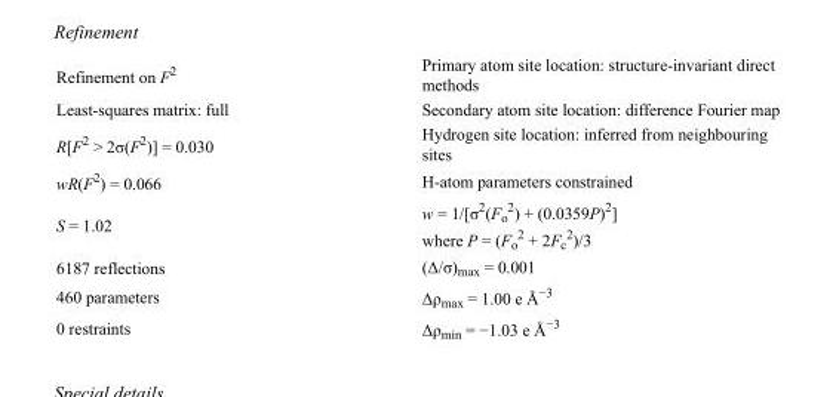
<table><tbody><tr><td>Refinement on F<sup>2</sup></td><td>Primary atom site location: structure-invariant direct methods</td></tr><tr><td>Least-squares matrix: full</td><td>Secondary atom site location: difference Fourier map</td></tr><tr><td>R[F<sup>2</sup> &gt; 2σ(F<sup>2</sup>)] = 0.030</td><td>Hydrogen site location: inferred from neighbouring sites</td></tr><tr><td>wR(F<sup>2</sup>) = 0.066</td><td>H-atom parameters constrained</td></tr><tr><td>S = 1.02</td><td>w = 1/[σ<sup>2</sup>(F<sub>o</sub> <sup>2</sup>) + (0.0359P)<sup>2</sup>] where P = (F<sub>o</sub> <sup>2</sup> + 2F<sub>c</sub> <sup>2</sup>)/3</td></tr><tr><td>6187 reflections</td><td>(Δ/σ)<sub>max</sub> = 0.001</td></tr><tr><td>460 parameters</td><td>Δρ<sub>max</sub> = 1.00 e Å<sup>−3</sup></td></tr><tr><td>0 restraints</td><td>Δρ<sub>min</sub> = −1.03 e Å<sup>−3</sup></td></tr></tbody></table>